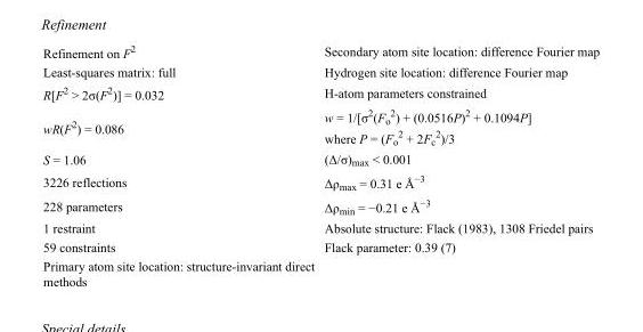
<table><tbody><tr><td>Refinement on F<sup>2</sup></td><td>Secondary atom site location: difference Fourier map</td></tr><tr><td>Least-squares matrix: full</td><td>Hydrogen site location: difference Fourier map</td></tr><tr><td>R[F<sup>2</sup> &gt; 2σ(F<sup>2</sup>)] = 0.032</td><td>H-atom parameters constrained</td></tr><tr><td>wR(F<sup>2</sup>) = 0.086</td><td>w = 1/[σ<sup>2</sup>(F<sub>o</sub> <sup>2</sup>) + (0.0516P)<sup>2</sup> + 0.1094P] where P = (F<sub>o</sub> <sup>2</sup> + 2F<sub>c</sub> <sup>2</sup>)/3</td></tr><tr><td>S = 1.06</td><td>(Δ/σ)<sub>max</sub> &lt; 0.001</td></tr><tr><td>3226 reflections</td><td>Δρ<sub>max</sub> = 0.31 e Å<sup>−3</sup></td></tr><tr><td>228 parameters</td><td>Δρ<sub>min</sub> = −0.21 e Å<sup>−3</sup></td></tr><tr><td>1 restraint</td><td>Absolute structure: Flack (1983), 1308 Friedel pairs</td></tr><tr><td>59 constraints</td><td>Flack parameter: 0.39 (7)</td></tr><tr><td>Primary atom site location: structure-invariant direct methods</td><td></td></tr></tbody></table>